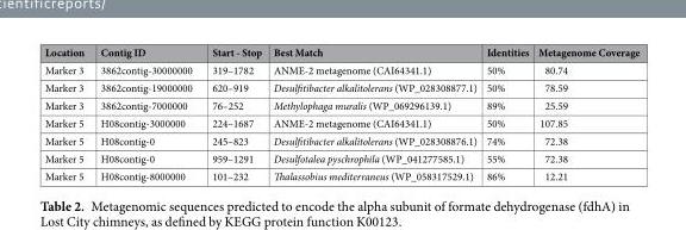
<table><thead><tr><td>Location</td><td>Contig ID</td><td>Start - Stop</td><td>Best Match</td><td>Identities</td><td>Metagenome Coverage</td></tr></thead><tbody><tr><td>Marker 3</td><td>3862contig-30000000</td><td>319–1782</td><td>ANME-2 metagenome (CAI64341.1)</td><td>50%</td><td>80.74</td></tr><tr><td>Marker 3</td><td>3862contig-19000000</td><td>620–919</td><td>Desulfitibacter alkalitolerans (WP_028308877.1)</td><td>50%</td><td>78.59</td></tr><tr><td>Marker 3</td><td>3862contig-7000000</td><td>76–252</td><td>Methylophaga muralis (WP_069296139.1)</td><td>89%</td><td>25.59</td></tr><tr><td>Marker 5</td><td>H08contig-3000000</td><td>224–1687</td><td>ANME-2 metagenome (CAI64341.1)</td><td>50%</td><td>107.85</td></tr><tr><td>Marker 5</td><td>H08contig-0</td><td>245–823</td><td>Desulfitibacter alkalitolerans (WP_028308876.1)</td><td>74%</td><td>72.38</td></tr><tr><td>Marker 5</td><td>H08contig-0</td><td>959–1291</td><td>Desulfotalea pyschrophila (WP_041277585.1)</td><td>55%</td><td>72.38</td></tr><tr><td>Marker 5</td><td>H08contig-8000000</td><td>101–232</td><td>Thalassobius mediterraneus (WP_058317529.1)</td><td>86%</td><td>12.21</td></tr></tbody></table>